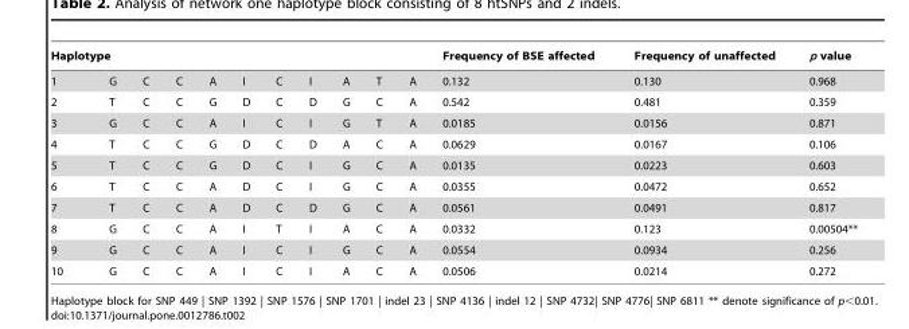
<table><thead><tr><td colspan="11">Haplotype</td><td rowspan="2">Frequency of BSE affected 0.132</td><td rowspan="2">Frequency of unaffected 0.130</td><td rowspan="2">p value 0.968</td></tr><tr><td>1</td><td>G</td><td>C</td><td>C</td><td>A</td><td>I</td><td>C</td><td>I</td><td>A</td><td>T</td><td>A</td></tr></thead><tbody><tr><td>2</td><td>T</td><td>C</td><td>C</td><td>G</td><td>D</td><td>C</td><td>D</td><td>G</td><td>C</td><td>A</td><td>0.542</td><td>0.481</td><td>0.359</td></tr><tr><td>3</td><td>G</td><td>C</td><td>C</td><td>A</td><td>I</td><td>C</td><td>I</td><td>G</td><td>T</td><td>A</td><td>0.0185</td><td>0.0156</td><td>0.871</td></tr><tr><td>4</td><td>T</td><td>C</td><td>C</td><td>G</td><td>D</td><td>C</td><td>D</td><td>A</td><td>C</td><td>A</td><td>0.0629</td><td>0.0167</td><td>0.106</td></tr><tr><td>5</td><td>T</td><td>C</td><td>C</td><td>G</td><td>D</td><td>C</td><td>I</td><td>G</td><td>C</td><td>A</td><td>0.0135</td><td>0.0223</td><td>0.603</td></tr><tr><td>6</td><td>T</td><td>C</td><td>C</td><td>A</td><td>D</td><td>C</td><td>I</td><td>G</td><td>C</td><td>A</td><td>0.0355</td><td>0.0472</td><td>0.652</td></tr><tr><td>7</td><td>T</td><td>C</td><td>C</td><td>A</td><td>D</td><td>C</td><td>D</td><td>G</td><td>C</td><td>A</td><td>0.0561</td><td>0.0491</td><td>0.817</td></tr><tr><td>8</td><td>G</td><td>C</td><td>C</td><td>A</td><td>I</td><td>T</td><td>I</td><td>A</td><td>C</td><td>A</td><td>0.0332</td><td>0.123</td><td>0.00504**</td></tr><tr><td>9</td><td>G</td><td>C</td><td>C</td><td>A</td><td>I</td><td>C</td><td>I</td><td>G</td><td>C</td><td>A</td><td>0.0554</td><td>0.0934</td><td>0.256</td></tr><tr><td>10</td><td>G</td><td>C</td><td>C</td><td>A</td><td>I</td><td>C</td><td>I</td><td>A</td><td>C</td><td>A</td><td>0.0506</td><td>0.0214</td><td>0.272</td></tr></tbody></table>